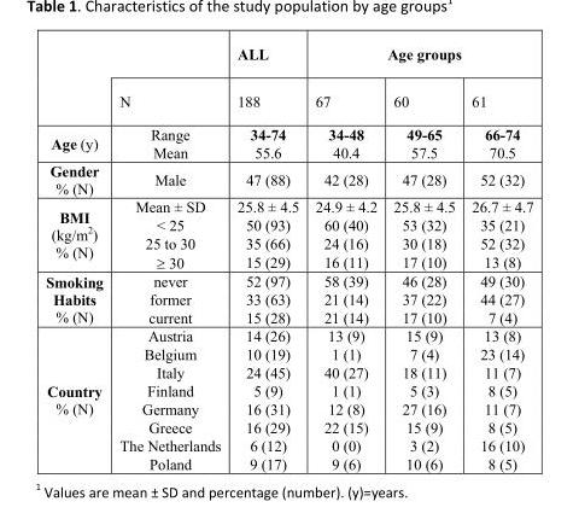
<table><thead><tr><td rowspan="2"></td><td rowspan="2">N</td><td rowspan="2">ALL 188</td><td colspan="3">Age groups</td></tr><tr><td>67</td><td>60</td><td>61</td></tr></thead><tbody><tr><td rowspan="2">Age (y)</td><td>Range</td><td>34-74</td><td>34-48</td><td>49-65</td><td>66-74</td></tr><tr><td>Mean</td><td>55.6</td><td>40.4</td><td>57.5</td><td>70.5</td></tr><tr><td>Gender % (N)</td><td>Male</td><td>47 (88)</td><td>42 (28)</td><td>47 (28)</td><td>52 (32)</td></tr><tr><td rowspan="4">BMI (kg/m<sup>2</sup>) % (N)</td><td>Mean ± SD</td><td>25.8 ± 4.5</td><td>24.9 ± 4.2</td><td>25.8 ± 4.5</td><td>26.7 ± 4.7</td></tr><tr><td>&lt; 25</td><td>50 (93)</td><td>60 (40)</td><td>53 (32)</td><td>35 (21)</td></tr><tr><td>25 to 30</td><td>35 (66)</td><td>24 (16)</td><td>30 (18)</td><td>52 (32)</td></tr><tr><td>≥ 30</td><td>15 (29)</td><td>16 (11)</td><td>17 (10)</td><td>13 (8)</td></tr><tr><td rowspan="3">Smoking Habits % (N)</td><td>never</td><td>52 (97)</td><td>58 (39)</td><td>46 (28)</td><td>49 (30)</td></tr><tr><td>former</td><td>33 (63)</td><td>21 (14)</td><td>37 (22)</td><td>44 (27)</td></tr><tr><td>current</td><td>15 (28)</td><td>21 (14)</td><td>17 (10)</td><td>7 (4)</td></tr><tr><td rowspan="8">Country % (N)</td><td>Austria</td><td>14 (26)</td><td>13 (9)</td><td>15 (9)</td><td>13 (8)</td></tr><tr><td>Belgium</td><td>10 (19)</td><td>1 (1)</td><td>7 (4)</td><td>23 (14)</td></tr><tr><td>Italy</td><td>24 (45)</td><td>40 (27)</td><td>18 (11)</td><td>11 (7)</td></tr><tr><td>Finland</td><td>5 (9)</td><td>1 (1)</td><td>5 (3)</td><td>8 (5)</td></tr><tr><td>Germany</td><td>16 (31)</td><td>12 (8)</td><td>27 (16)</td><td>11 (7)</td></tr><tr><td>Greece</td><td>16 (29)</td><td>22 (15)</td><td>15 (9)</td><td>8 (5)</td></tr><tr><td>The Netherlands</td><td>6 (12)</td><td>0 (0)</td><td>3 (2)</td><td>16 (10)</td></tr><tr><td>Poland</td><td>9 (17)</td><td>9 (6)</td><td>10 (6)</td><td>8 (5)</td></tr></tbody></table>